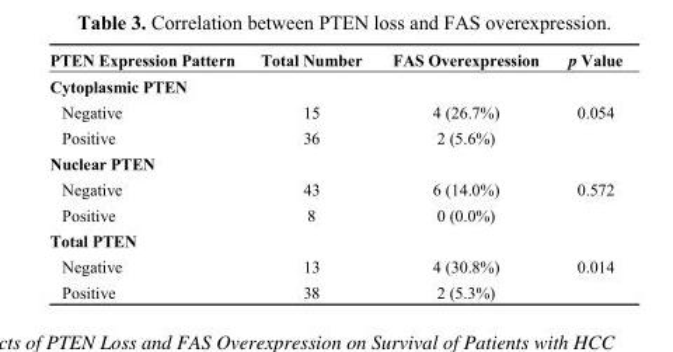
<table><thead><tr><td>PTEN Expression Pattern</td><td>Total Number</td><td>FAS Overexpression</td><td>p Value</td></tr></thead><tbody><tr><td colspan="4">Cytoplasmic PTEN</td></tr><tr><td>Negative</td><td>15</td><td>4 (26.7%)</td><td>0.054</td></tr><tr><td>Positive</td><td>36</td><td>2 (5.6%)</td><td></td></tr><tr><td colspan="4">Nuclear PTEN</td></tr><tr><td>Negative</td><td>43</td><td>6 (14.0%)</td><td>0.572</td></tr><tr><td>Positive</td><td>8</td><td>0 (0.0%)</td><td></td></tr><tr><td colspan="4">Total PTEN</td></tr><tr><td>Negative</td><td>13</td><td>4 (30.8%)</td><td>0.014</td></tr><tr><td>Positive</td><td>38</td><td>2 (5.3%)</td><td></td></tr></tbody></table>